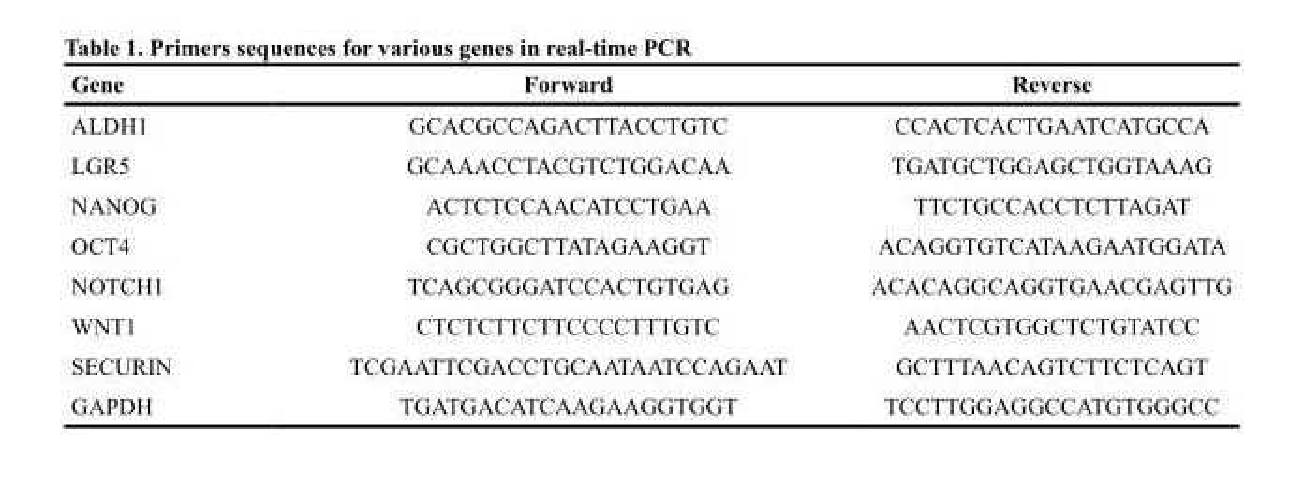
<table><thead><tr><td>Gene</td><td>Forward</td><td>Reverse</td></tr></thead><tbody><tr><td>ALDH1</td><td>GCACGCCAGACTTACCTGTC</td><td>CCACTCACTGAATCATGCCA</td></tr><tr><td>LGR5</td><td>GCAAACCTACGTCTGGACAA</td><td>TGATGCTGGAGCTGGTAAAG</td></tr><tr><td>NANOG</td><td>ACTCTCCAACATCCTGAA</td><td>TTCTGCCACCTCTTAGAT</td></tr><tr><td>OCT4</td><td>CGCTGGCTTATAGAAGGT</td><td>ACAGGTGTCATAAGAATGGATA</td></tr><tr><td>NOTCH1</td><td>TCAGCGGGATCCACTGTGAG</td><td>ACACAGGCAGGTGAACGAGTTG</td></tr><tr><td>WNT1</td><td>CTCTCTTCTTCCCCTTTGTC</td><td>AACTCGTGGCTCTGTATCC</td></tr><tr><td>SECURIN</td><td>TCGAATTCGACCTGCAATAATCCAGAAT</td><td>GCTTTAACAGTCTTCTCAGT</td></tr><tr><td>GAPDH</td><td>TGATGACATCAAGAAGGTGGT</td><td>TCCTTGGAGGCCATGTGGGCC</td></tr></tbody></table>